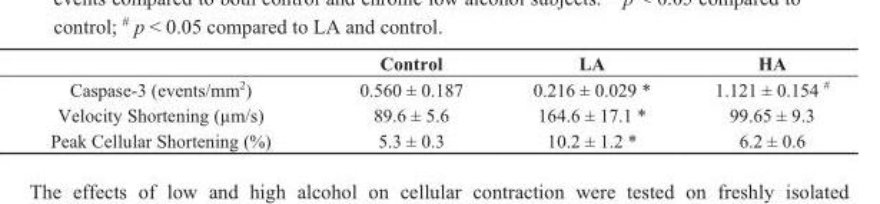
<table><thead><tr><td></td><td>Control</td><td>LA</td><td>HA</td></tr></thead><tbody><tr><td>Caspase-3 (events/mm<sup>2</sup>)</td><td>0.560 ± 0.187</td><td>0.216 ± 0.029 *</td><td>1.121 ± 0.154 <sup>#</sup></td></tr><tr><td>Velocity Shortening (μm/s)</td><td>89.6 ± 5.6</td><td>164.6 ± 17.1 *</td><td>99.65 ± 9.3</td></tr><tr><td>Peak Cellular Shortening (%)</td><td>5.3 ± 0.3</td><td>10.2 ± 1.2 *</td><td>6.2 ± 0.6</td></tr></tbody></table>